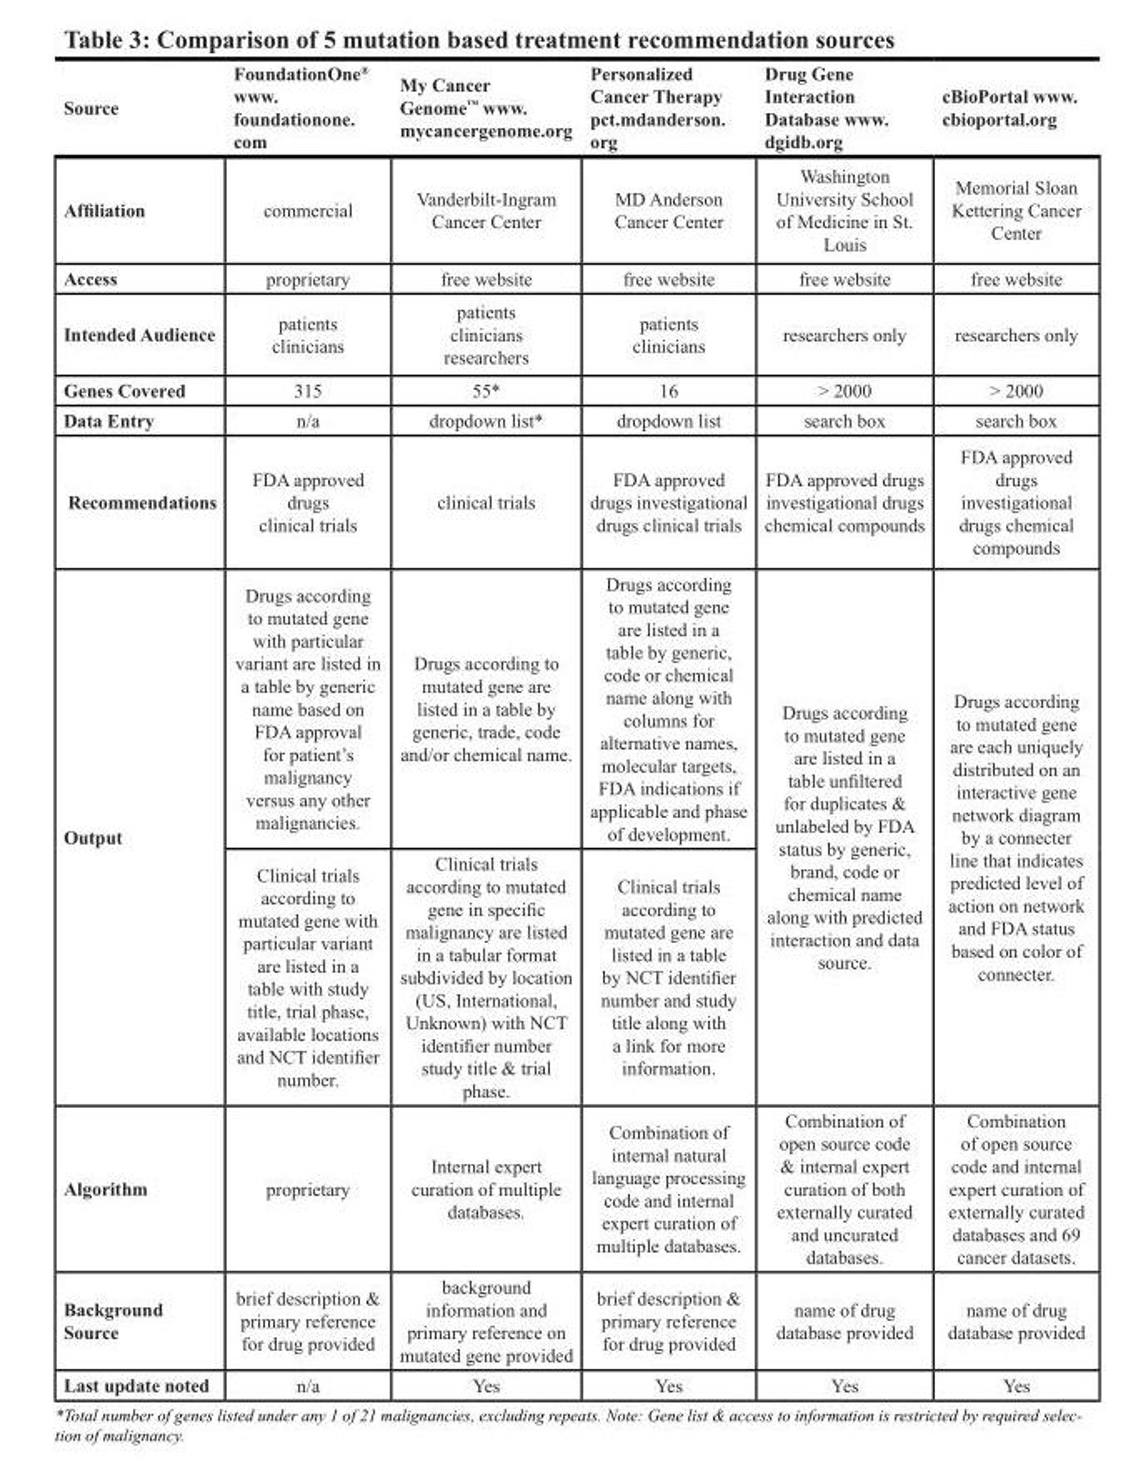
<table><thead><tr><td>Source</td><td>FoundationOne<sup>®</sup> www. foundationone. com</td><td>My Cancer Genome<sup>™</sup> www. mycancergenome.org</td><td>Personalized Cancer Therapy pct.mdanderson. org</td><td>Drug Gene Interaction Database www. dgidb.org</td><td>cBioPortal www. cbioportal.org</td></tr></thead><tbody><tr><td>Affiliation</td><td>commercial</td><td>Vanderbilt-Ingram Cancer Center</td><td>MD Anderson Cancer Center</td><td>Washington University School of Medicine in St. Louis</td><td>Memorial Sloan Kettering Cancer Center</td></tr><tr><td>Access</td><td>proprietary</td><td>free website</td><td>free website</td><td>free website</td><td>free website</td></tr><tr><td>Intended Audience</td><td>patients clinicians</td><td>patients clinicians researchers</td><td>patients clinicians</td><td>researchers only</td><td>researchers only</td></tr><tr><td>Genes Covered</td><td>315</td><td>55*</td><td>16</td><td>&gt; 2000</td><td>&gt; 2000</td></tr><tr><td>Data Entry</td><td>n/a</td><td>dropdown list*</td><td>dropdown list</td><td>search box</td><td>search box</td></tr><tr><td>Recommendations</td><td>FDA approved drugs clinical trials</td><td>clinical trials</td><td>FDA approved drugs investigational drugs clinical trials</td><td>FDA approved drugs investigational drugs chemical compounds</td><td>FDA approved drugs investigational drugs chemical compounds</td></tr><tr><td rowspan="2">Output</td><td>Drugs according to mutated gene with particular variant are listed in a table by generic name based on FDA approval for patient’s malignancy versus any other malignancies.</td><td>Drugs according to mutated gene are listed in a table by generic, trade, code and/or chemical name.</td><td>Drugs according to mutated gene are listed in a table by generic, code or chemical name along with columns for alternative names, molecular targets, FDA indications if applicable and phase of development.</td><td rowspan="2">Drugs according to mutated gene are listed in a table unfiltered for duplicates &amp; unlabeled by FDA status by generic, brand, code or chemical name along with predicted interaction and data source.</td><td rowspan="2">Drugs according to mutated gene are each uniquely distributed on an interactive gene network diagram by a connecter line that indicates predicted level of action on network and FDA status based on color of connecter.</td></tr><tr><td>Clinical trials according to mutated gene with particular variant are listed in a table with study title, trial phase, available locations and NCT identifier number.</td><td>Clinical trials according to mutated gene in specific malignancy are listed in a tabular format subdivided by location (US, International, Unknown) with NCT identifier number study title &amp; trial phase.</td><td>Clinical trials according to mutated gene are listed in a table by NCT identifier number and study title along with a link for more information.</td></tr><tr><td>Algorithm</td><td>proprietary</td><td>Internal expert curation of multiple databases.</td><td>Combination of internal natural language processing code and internal expert curation of multiple databases.</td><td>Combination of open source code &amp; internal expert curation of both externally curated and uncurated databases.</td><td>Combination of open source code and internal expert curation of externally curated databases and 69 cancer datasets.</td></tr><tr><td>Background Source</td><td>brief description &amp; primary reference for drug provided</td><td>background information and primary reference on mutated gene provided</td><td>brief description &amp; primary reference for drug provided</td><td>name of drug database provided</td><td>name of drug database provided</td></tr><tr><td>Last update noted</td><td>n/a</td><td>Yes</td><td>Yes</td><td>Yes</td><td>Yes</td></tr></tbody></table>